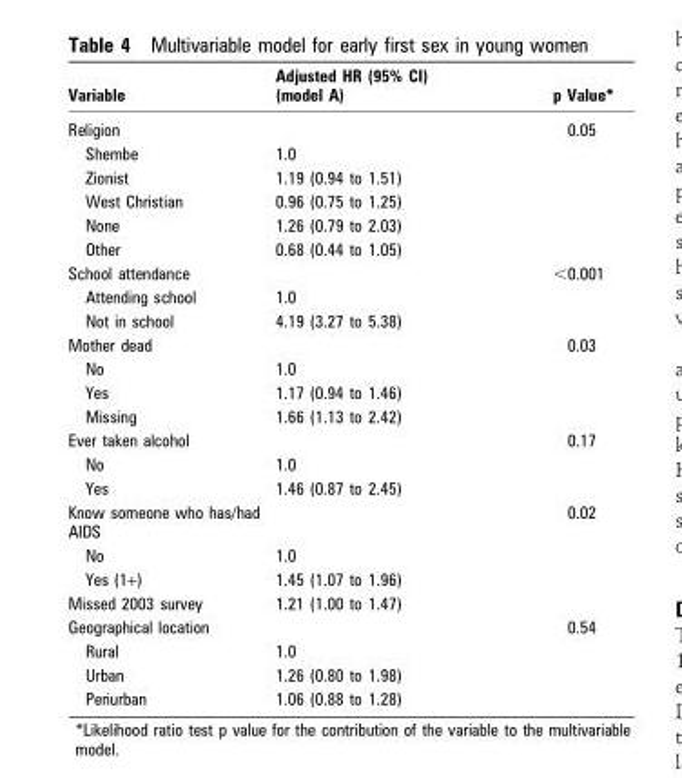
<table><thead><tr><td>Variable</td><td>Adjusted HR (95% CI) (model A)</td><td>p Value*</td></tr></thead><tbody><tr><td>Religion</td><td></td><td>0.05</td></tr><tr><td>Shembe</td><td>1.0</td><td></td></tr><tr><td>Zionist</td><td>1.19 (0.94 to 1.51)</td><td></td></tr><tr><td>West Christian</td><td>0.96 (0.75 to 1.25)</td><td></td></tr><tr><td>None</td><td>1.26 (0.79 to 2.03)</td><td></td></tr><tr><td>Other</td><td>0.68 (0.44 to 1.05)</td><td></td></tr><tr><td>School attendance</td><td></td><td>&lt;0.001</td></tr><tr><td>Attending school</td><td>1.0</td><td></td></tr><tr><td>Not in school</td><td>4.19 (3.27 to 5.38)</td><td></td></tr><tr><td>Mother dead</td><td></td><td>0.03</td></tr><tr><td>No</td><td>1.0</td><td></td></tr><tr><td>Yes</td><td>1.17 (0.94 to 1.46)</td><td></td></tr><tr><td>Missing</td><td>1.66 (1.13 to 2.42)</td><td></td></tr><tr><td>Ever taken alcohol</td><td></td><td>0.17</td></tr><tr><td>No</td><td>1.0</td><td></td></tr><tr><td>Yes</td><td>1.46 (0.87 to 2.45)</td><td></td></tr><tr><td>Know someone who has/had AIDS</td><td></td><td>0.02</td></tr><tr><td>No</td><td>1.0</td><td></td></tr><tr><td>Yes (1+)</td><td>1.45 (1.07 to 1.96)</td><td></td></tr><tr><td>Missed 2003 survey</td><td>1.21 (1.00 to 1.47)</td><td></td></tr><tr><td>Geographical location</td><td></td><td>0.54</td></tr><tr><td>Rural</td><td>1.0</td><td></td></tr><tr><td>Urban</td><td>1.26 (0.80 to 1.98)</td><td></td></tr><tr><td>Periurban</td><td>1.06 (0.88 to 1.28)</td><td></td></tr></tbody></table>